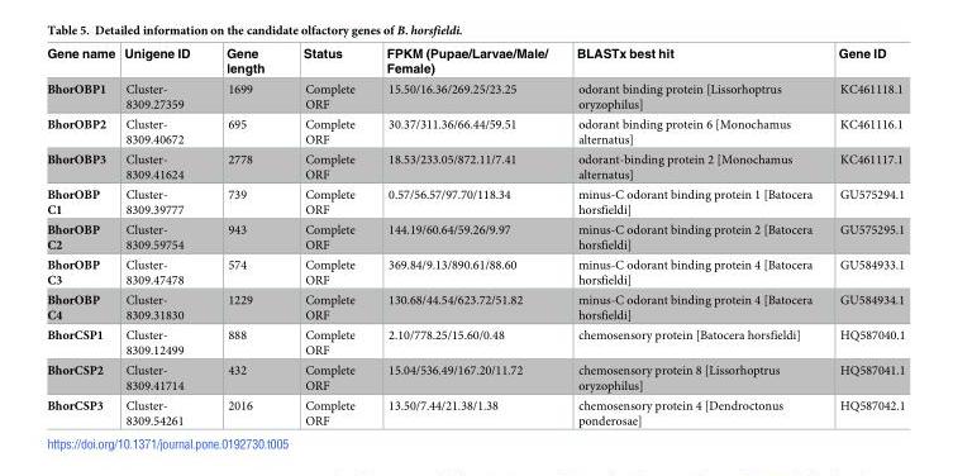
<table><thead><tr><td>Gene name</td><td>Unigene ID</td><td>Gene length</td><td>Status</td><td>FPKM (Pupae/Larvae/Male/ Female)</td><td>BLASTx best hit</td><td>Gene ID</td></tr></thead><tbody><tr><td>BhorOBP1</td><td>Cluster- 8309.27359</td><td>1699</td><td>Complete ORF</td><td>15.50/16.36/269.25/23.25</td><td>odorant binding protein [Lissorhoptrus oryzophilus]</td><td>KC461118.1</td></tr><tr><td>BhorOBP2</td><td>Cluster- 8309.40672</td><td>695</td><td>Complete ORF</td><td>30.37/311.36/66.44/59.51</td><td>odorant binding protein 6 [Monochamus alternatus]</td><td>KC461116.1</td></tr><tr><td>BhorOBP3</td><td>Cluster- 8309.41624</td><td>2778</td><td>Complete ORF</td><td>18.53/233.05/872.11/7.41</td><td>odorant-binding protein 2 [Monochamus alternatus]</td><td>KC461117.1</td></tr><tr><td>BhorOBP C1</td><td>Cluster- 8309.39777</td><td>739</td><td>Complete ORF</td><td>0.57/56.57/97.70/118.34</td><td>minus-C odorant binding protein 1 [Batocera horsfieldi]</td><td>GU575294.1</td></tr><tr><td>BhorOBP C2</td><td>Cluster- 8309.59754</td><td>943</td><td>Complete ORF</td><td>144.19/60.64/59.26/9.97</td><td>minus-C odorant binding protein 2 [Batocera horsfieldi]</td><td>GU575295.1</td></tr><tr><td>BhorOBP C3</td><td>Cluster- 8309.47478</td><td>574</td><td>Complete ORF</td><td>369.84/9.13/890.61/88.60</td><td>minus-C odorant binding protein 4 [Batocera horsfieldi]</td><td>GU584933.1</td></tr><tr><td>BhorOBP C4</td><td>Cluster- 8309.31830</td><td>1229</td><td>Complete ORF</td><td>130.68/44.54/623.72/51.82</td><td>minus-C odorant binding protein 4 [Batocera horsfieldi]</td><td>GU584934.1</td></tr><tr><td>BhorCSP1</td><td>Cluster- 8309.12499</td><td>888</td><td>Complete ORF</td><td>2.10/778.25/15.60/0.48</td><td>chemosensory protein [Batocera horsfieldi]</td><td>HQ587040.1</td></tr><tr><td>BhorCSP2</td><td>Cluster- 8309.41714</td><td>432</td><td>Complete ORF</td><td>15.04/536.49/167.20/11.72</td><td>chemosensory protein 8 [Lissorhoptrus oryzophilus]</td><td>HQ587041.1</td></tr><tr><td>BhorCSP3</td><td>Cluster- 8309.54261</td><td>2016</td><td>Complete ORF</td><td>13.50/7.44/21.38/1.38</td><td>chemosensory protein 4 [Dendroctonus ponderosae]</td><td>HQ587042.1</td></tr></tbody></table>